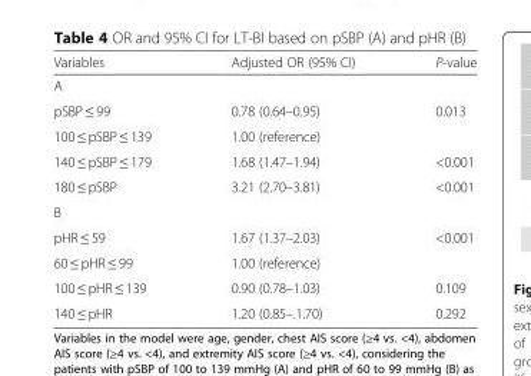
<table><thead><tr><td>Variables</td><td>Adjusted OR (95% CI)</td><td>P-value</td></tr></thead><tbody><tr><td colspan="3">A</td></tr><tr><td>pSBP ≤ 99</td><td>0.78 (0.64–0.95)</td><td>0.013</td></tr><tr><td>100 ≤ pSBP ≤ 139</td><td>1.00 (reference)</td><td></td></tr><tr><td>140 ≤ pSBP ≤ 179</td><td>1.68 (1.47–1.94)</td><td>&lt;0.001</td></tr><tr><td>180 ≤ pSBP</td><td>3.21 (2.70–3.81)</td><td>&lt;0.001</td></tr><tr><td colspan="3">B</td></tr><tr><td>pHR ≤ 59</td><td>1.67 (1.37–2.03)</td><td>&lt;0.001</td></tr><tr><td>60 ≤ pHR ≤ 99</td><td>1.00 (reference)</td><td></td></tr><tr><td>100 ≤ pHR ≤ 139</td><td>0.90 (0.78–1.03)</td><td>0.109</td></tr><tr><td>140 ≤ pHR</td><td>1.20 (0.85–.1.70)</td><td>0.292</td></tr></tbody></table>